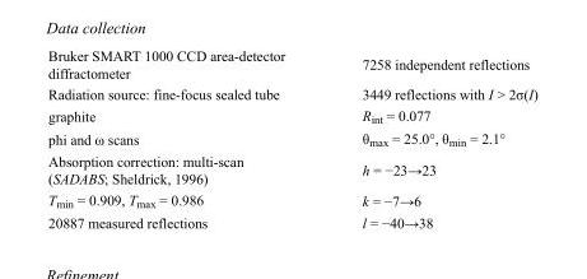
<table><tbody><tr><td>Bruker SMART 1000 CCD area-detector diffractometer</td><td>7258 independent reflections</td></tr><tr><td>Radiation source: fine-focus sealed tube</td><td>3449 reflections with I &gt; 2σ(I)</td></tr><tr><td>graphite</td><td>R<sub>int</sub> = 0.077</td></tr><tr><td>phi and ω scans</td><td>θ<sub>max</sub> = 25.0°, θ<sub>min</sub> = 2.1°</td></tr><tr><td>Absorption correction: multi-scan (SADABS; Sheldrick, 1996)</td><td>h = −23→23</td></tr><tr><td>T<sub>min</sub> = 0.909, T<sub>max</sub> = 0.986</td><td>k = −7→6</td></tr><tr><td>20887 measured reflections</td><td>l = −40→38</td></tr></tbody></table>